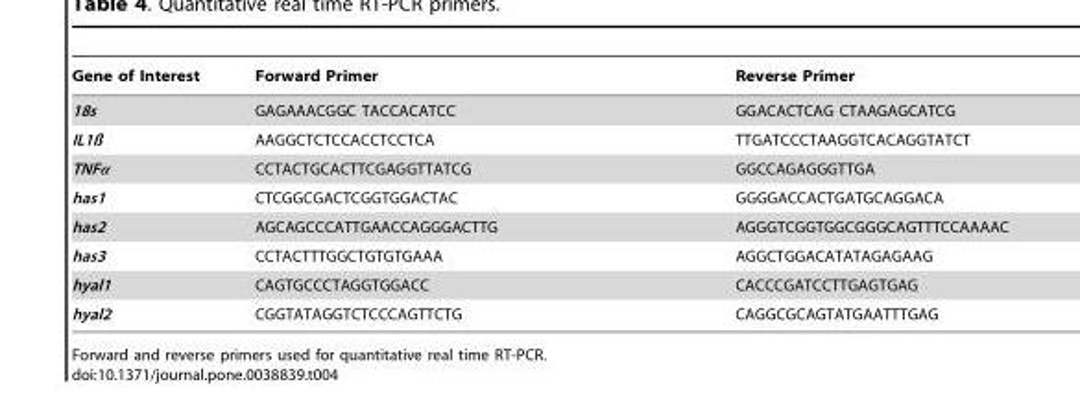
<table><thead><tr><td>Gene of Interest</td><td>Forward Primer</td><td>Reverse Primer</td></tr></thead><tbody><tr><td>18s</td><td>GAGAAACGGC TACCACATCC</td><td>GGACACTCAG CTAAGAGCATCG</td></tr><tr><td>IL1ß</td><td>AAGGCTCTCCACCTCCTCA</td><td>TTGATCCCTAAGGTCACAGGTATCT</td></tr><tr><td>TNFα</td><td>CCTACTGCACTTCGAGGTTATCG</td><td>GGCCAGAGGGTTGA</td></tr><tr><td>has1</td><td>CTCGGCGACTCGGTGGACTAC</td><td>GGGGACCACTGATGCAGGACA</td></tr><tr><td>has2</td><td>AGCAGCCCATTGAACCAGGGACTTG</td><td>AGGGTCGGTGGCGGGCAGTTTCCAAAAC</td></tr><tr><td>has3</td><td>CCTACTTTGGCTGTGTGAAA</td><td>AGGCTGGACATATAGAGAAG</td></tr><tr><td>hyal1</td><td>CAGTGCCCTAGGTGGACC</td><td>CACCCGATCCTTGAGTGAG</td></tr><tr><td>hyal2</td><td>CGGTATAGGTCTCCCAGTTCTG</td><td>CAGGCGCAGTATGAATTTGAG</td></tr></tbody></table>